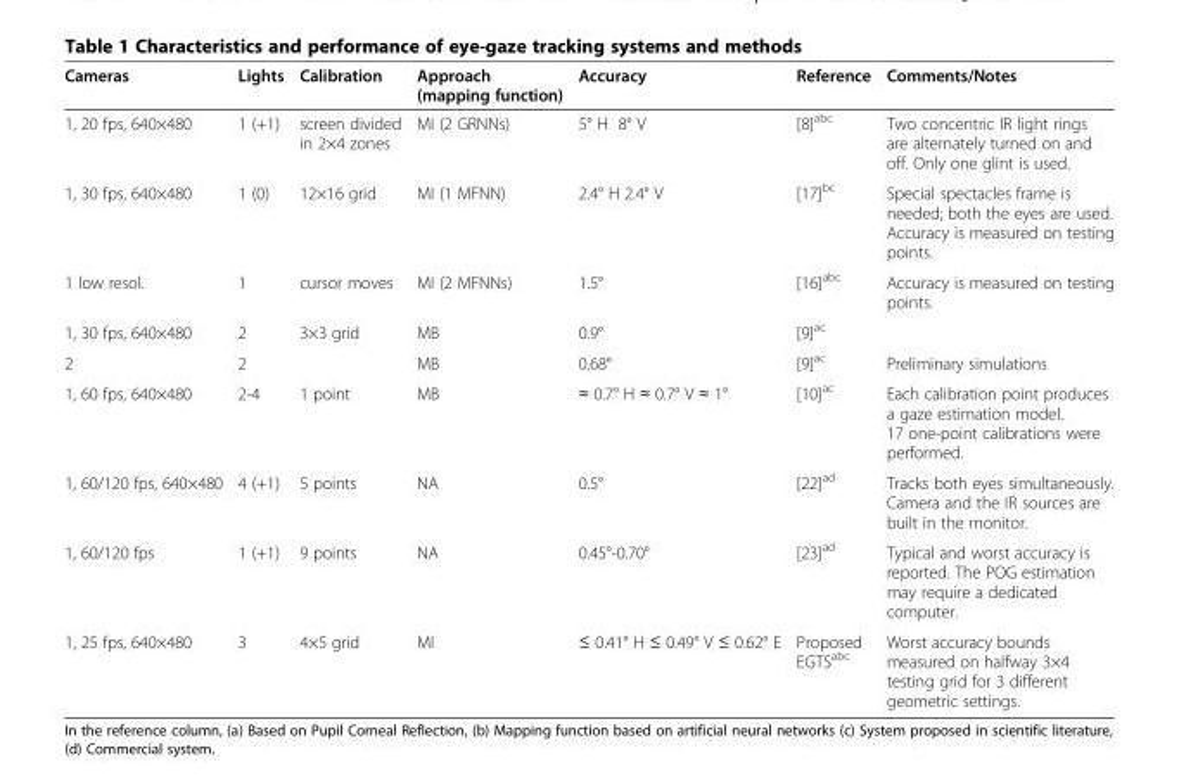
<table><thead><tr><td>Cameras</td><td>Lights</td><td>Calibration</td><td>Approach (mapping function)</td><td>Accuracy</td><td>Reference</td><td>Comments/Notes</td></tr></thead><tbody><tr><td>1, 20 fps, 640×480</td><td>1 (+1)</td><td>screen divided in 2×4 zones</td><td>MI (2 GRNNs)</td><td>5° H 8° V</td><td>[8]<sup>abc</sup></td><td>Two concentric IR light rings are alternately turned on and off. Only one glint is used.</td></tr><tr><td>1, 30 fps, 640×480</td><td>1 (0)</td><td>12×16 grid</td><td>MI (1 MFNN)</td><td>2.4° H 2.4° V</td><td>[17]<sup>bc</sup></td><td>Special spectacles frame is needed; both the eyes are used. Accuracy is measured on testing points.</td></tr><tr><td>1 low resol.</td><td>1</td><td>cursor moves</td><td>MI (2 MFNNs)</td><td>1.5°</td><td>[16]<sup>abc</sup></td><td>Accuracy is measured on testing points.</td></tr><tr><td>1, 30 fps, 640×480</td><td>2</td><td>3×3 grid</td><td>MB</td><td>0.9°</td><td>[9]<sup>ac</sup></td><td></td></tr><tr><td>2</td><td>2</td><td></td><td>MB</td><td>0.68°</td><td>[9]<sup>ac</sup></td><td>Preliminary simulations</td></tr><tr><td>1, 60 fps, 640×480</td><td>2-4</td><td>1 point</td><td>MB</td><td>≈ 0.7° H ≈ 0.7° V ≈ 1°</td><td>[10]<sup>ac</sup></td><td>Each calibration point produces a gaze estimation model. 17 one-point calibrations were performed.</td></tr><tr><td>1, 60/120 fps, 640×480</td><td>4 (+1)</td><td>5 points</td><td>NA</td><td>0.5°</td><td>[22]<sup>ad</sup></td><td>Tracks both eyes simultaneously. Camera and the IR sources are built in the monitor.</td></tr><tr><td>1, 60/120 fps</td><td>1 (+1)</td><td>9 points</td><td>NA</td><td>0.45°-0.70°</td><td>[23]<sup>ad</sup></td><td>Typical and worst accuracy is reported. The POG estimation may require a dedicated computer.</td></tr><tr><td>1, 25 fps, 640×480</td><td>3</td><td>4×5 grid</td><td>MI</td><td>≤ 0.41° H ≤ 0.49° V ≤ 0.62° E</td><td>Proposed EGTS<sup>abc</sup></td><td>Worst accuracy bounds measured on halfway 3×4 testing grid for 3 different geometric settings.</td></tr></tbody></table>